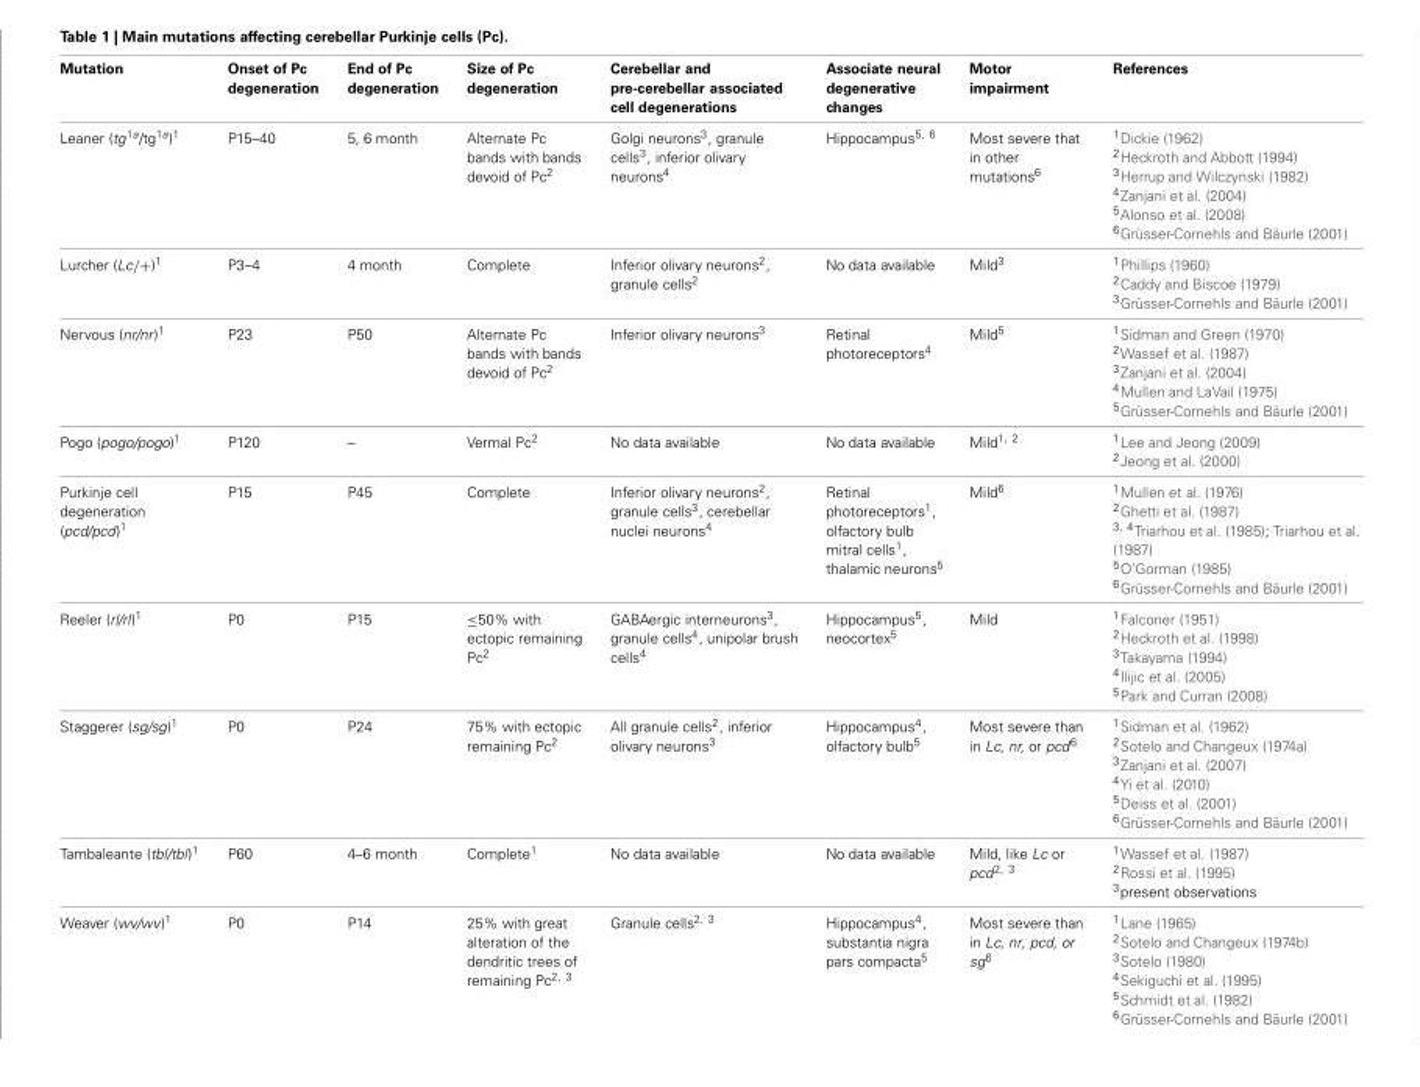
<table><thead><tr><td>Mutation</td><td>Onset of Pc degeneration</td><td>End of Pc degeneration</td><td>Size of Pc degeneration</td><td>Cerebellar and pre-cerebellar associated cell degenerations</td><td>Associate neural degenerative changes</td><td>Motor impairment</td><td>References</td></tr></thead><tbody><tr><td>Leaner (tg<sup>1a</sup>/tg<sup>1a</sup>)<sup>1</sup></td><td>P15–40</td><td>5, 6 month</td><td>Alternate Pc bands with bands devoid of Pc<sup>2</sup></td><td>Golgi neurons<sup>3</sup>, granule cells<sup>3</sup>, inferior olivary neurons<sup>4</sup></td><td>Hippocampus<sup>5, 6</sup></td><td>Most severe that in other mutations<sup>6</sup></td><td><sup>1</sup>Dickie (1962) <sup>2</sup>Heckroth and Abbott (1994) <sup>3</sup>Herrup and Wilczynski (1982) <sup>4</sup>Zanjani et al. (2004) <sup>5</sup>Alonso et al. (2008) <sup>6</sup>Grüsser-Cornehls and Bäurle (2001)</td></tr><tr><td>Lurcher (Lc/+)<sup>1</sup></td><td>P3–4</td><td>4 month</td><td>Complete</td><td>Inferior olivary neurons<sup>2</sup>, granule cells<sup>2</sup></td><td>No data available</td><td>Mild<sup>3</sup></td><td><sup>1</sup>Phillips (1960) <sup>2</sup>Caddy and Biscoe (1979) <sup>3</sup>Grüsser-Cornehls and Bäurle (2001)</td></tr><tr><td>Nervous (nr/nr)<sup>1</sup></td><td>P23</td><td>P50</td><td>Alternate Pc bands with bands devoid of Pc<sup>2</sup></td><td>Inferior olivary neurons<sup>3</sup></td><td>Retinal photoreceptors<sup>4</sup></td><td>Mild<sup>5</sup></td><td><sup>1</sup>Sidman and Green (1970) <sup>2</sup>Wassef et al. (1987) <sup>3</sup>Zanjani et al. (2004) <sup>4</sup>Mullen and LaVail (1975) <sup>5</sup>Grüsser-Cornehls and Bäurle (2001)</td></tr><tr><td>Pogo (pogo/pogo)<sup>1</sup></td><td>P120</td><td>–</td><td>Vermal Pc<sup>2</sup></td><td>No data available</td><td>No data available</td><td>Mild<sup>1, 2</sup></td><td><sup>1</sup>Lee and Jeong (2009) <sup>2</sup>Jeong et al. (2000)</td></tr><tr><td>Purkinje cell degeneration (pcd/pcd)<sup>1</sup></td><td>P15</td><td>P45</td><td>Complete</td><td>Inferior olivary neurons<sup>2</sup>, granule cells<sup>3</sup>, cerebellar nuclei neurons<sup>4</sup></td><td>Retinal photoreceptors<sup>1</sup>, olfactory bulb mitral cells<sup>1</sup>, thalamic neurons<sup>5</sup></td><td>Mild<sup>6</sup></td><td><sup>1</sup>Mullen et al. (1976) <sup>2</sup>Ghetti et al. (1987) <sup>3, 4</sup>Triarhou et al. (1985); Triarhou et al. (1987) <sup>5</sup>O’Gorman (1985) <sup>6</sup>Grüsser-Cornehls and Bäurle (2001)</td></tr><tr><td>Reeler (rl/rl)<sup>1</sup></td><td>P0</td><td>P15</td><td>≤50% with ectopic remaining Pc<sup>2</sup></td><td>GABAergic interneurons<sup>3</sup>, granule cells<sup>4</sup>, unipolar brush cells<sup>4</sup></td><td>Hippocampus<sup>5</sup>, neocortex<sup>5</sup></td><td>Mild</td><td>1Falconer (1951) 2Heckroth et al. (1998) 3Takayama (1994) 4Ilijic et al. (2005) 5Park and Curran (2008)</td></tr><tr><td>Staggerer (sg/sg)<sup>1</sup></td><td>P0</td><td>P24</td><td>75% with ectopic remaining Pc<sup>2</sup></td><td>All granule cells<sup>2</sup>, inferior olivary neurons<sup>3</sup></td><td>Hippocampus<sup>4</sup>, olfactory bulb<sup>5</sup></td><td>Most severe than in Lc, nr, or pcd<sup>6</sup></td><td><sup>1</sup>Sidman et al. (1962) <sup>2</sup>Sotelo and Changeux (1974a) <sup>3</sup>Zanjani et al. (2007) <sup>4</sup>Yi et al. (2010) <sup>5</sup>Deiss et al. (2001) <sup>6</sup>Grüsser-Cornehls and Bäurle (2001)</td></tr><tr><td>Tambaleante (tbl/tbl)<sup>1</sup></td><td>P60</td><td>4–6 month</td><td>Complete<sup>1</sup></td><td>No data available</td><td>No data available</td><td>Mild, like Lc or pcd<sup>2, 3</sup></td><td><sup>1</sup>Wassef et al. (1987) <sup>2</sup>Rossi et al. (1995) <sup>3</sup>present observations</td></tr><tr><td>Weaver (wv/wv)<sup>1</sup></td><td>P0</td><td>P14</td><td>25% with great alteration of the dendritic trees of remaining Pc<sup>2, 3</sup></td><td>Granule cells<sup>2, 3</sup></td><td>Hippocampus<sup>4</sup>, substantia nigra pars compacta<sup>5</sup></td><td>Most severe than in Lc, nr, pcd, or sg<sup>6</sup></td><td><sup>1</sup>Lane (1965) <sup>2</sup>Sotelo and Changeux (1974b) <sup>3</sup>Sotelo (1980) <sup>4</sup>Sekiguchi et al. (1995) <sup>5</sup>Schmidt et al. (1982) <sup>6</sup>Grüsser-Cornehls and Bäurle (2001)</td></tr></tbody></table>